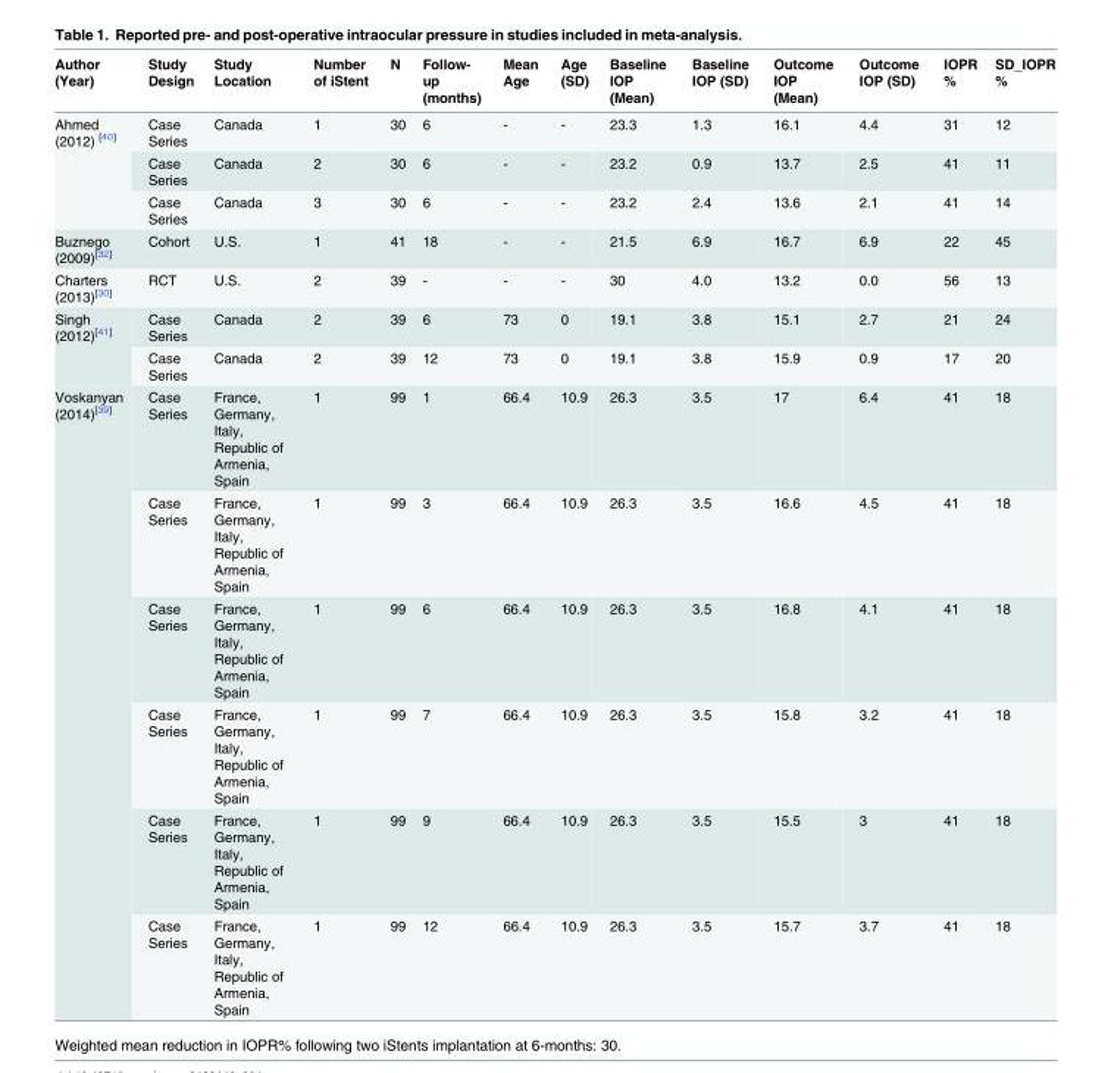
<table><thead><tr><td>Author (Year)</td><td>Study Design</td><td>Study Location</td><td>Number of iStent</td><td>N</td><td>Follow- up (months)</td><td>Mean Age</td><td>Age (SD)</td><td>Baseline IOP (Mean)</td><td>Baseline IOP (SD)</td><td>Outcome IOP (Mean)</td><td>Outcome IOP (SD)</td><td>IOPR %</td><td>SD_IOPR %</td></tr></thead><tbody><tr><td rowspan="3">Ahmed (2012) <sup>[40]</sup></td><td>Case Series</td><td>Canada</td><td>1</td><td>30</td><td>6</td><td>-</td><td>-</td><td>23.3</td><td>1.3</td><td>16.1</td><td>4.4</td><td>31</td><td>12</td></tr><tr><td>Case Series</td><td>Canada</td><td>2</td><td>30</td><td>6</td><td>-</td><td>-</td><td>23.2</td><td>0.9</td><td>13.7</td><td>2.5</td><td>41</td><td>11</td></tr><tr><td>Case Series</td><td>Canada</td><td>3</td><td>30</td><td>6</td><td>-</td><td>-</td><td>23.2</td><td>2.4</td><td>13.6</td><td>2.1</td><td>41</td><td>14</td></tr><tr><td>Buznego (2009)<sup>[32]</sup></td><td>Cohort</td><td>U.S.</td><td>1</td><td>41</td><td>18</td><td>-</td><td>-</td><td>21.5</td><td>6.9</td><td>16.7</td><td>6.9</td><td>22</td><td>45</td></tr><tr><td>Charters (2013)<sup>[30]</sup></td><td>RCT</td><td>U.S.</td><td>2</td><td>39</td><td>-</td><td>-</td><td>-</td><td>30</td><td>4.0</td><td>13.2</td><td>0.0</td><td>56</td><td>13</td></tr><tr><td rowspan="2">Singh (2012)<sup>[41]</sup></td><td>Case Series</td><td>Canada</td><td>2</td><td>39</td><td>6</td><td>73</td><td>0</td><td>19.1</td><td>3.8</td><td>15.1</td><td>2.7</td><td>21</td><td>24</td></tr><tr><td>Case Series</td><td>Canada</td><td>2</td><td>39</td><td>12</td><td>73</td><td>0</td><td>19.1</td><td>3.8</td><td>15.9</td><td>0.9</td><td>17</td><td>20</td></tr><tr><td rowspan="6">Voskanyan (2014)<sup>[39]</sup></td><td>Case Series</td><td>France, Germany, Italy, Republic of Armenia, Spain</td><td>1</td><td>99</td><td>1</td><td>66.4</td><td>10.9</td><td>26.3</td><td>3.5</td><td>17</td><td>6.4</td><td>41</td><td>18</td></tr><tr><td>Case Series</td><td>France, Germany, Italy, Republic of Armenia, Spain</td><td>1</td><td>99</td><td>3</td><td>66.4</td><td>10.9</td><td>26.3</td><td>3.5</td><td>16.6</td><td>4.5</td><td>41</td><td>18</td></tr><tr><td>Case Series</td><td>France, Germany, Italy, Republic of Armenia, Spain</td><td>1</td><td>99</td><td>6</td><td>66.4</td><td>10.9</td><td>26.3</td><td>3.5</td><td>16.8</td><td>4.1</td><td>41</td><td>18</td></tr><tr><td>Case Series</td><td>France, Germany, Italy, Republic of Armenia, Spain</td><td>1</td><td>99</td><td>7</td><td>66.4</td><td>10.9</td><td>26.3</td><td>3.5</td><td>15.8</td><td>3.2</td><td>41</td><td>18</td></tr><tr><td>Case Series</td><td>France, Germany, Italy, Republic of Armenia, Spain</td><td>1</td><td>99</td><td>9</td><td>66.4</td><td>10.9</td><td>26.3</td><td>3.5</td><td>15.5</td><td>3</td><td>41</td><td>18</td></tr><tr><td>Case Series</td><td>France, Germany, Italy, Republic of Armenia, Spain</td><td>1</td><td>99</td><td>12</td><td>66.4</td><td>10.9</td><td>26.3</td><td>3.5</td><td>15.7</td><td>3.7</td><td>41</td><td>18</td></tr></tbody></table>